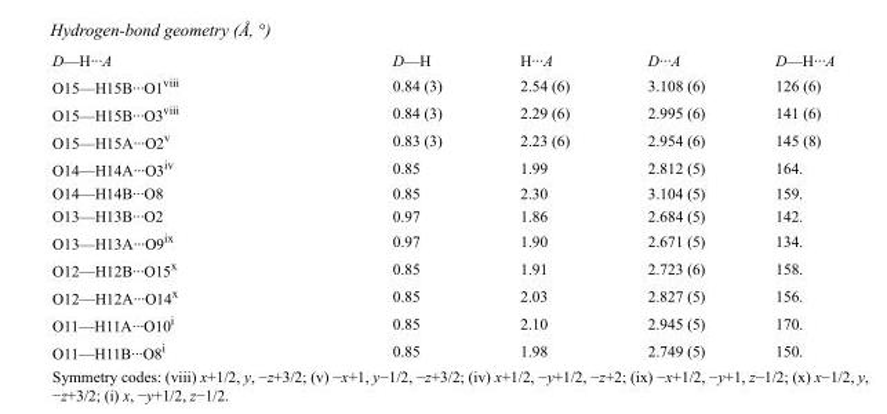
<table><tbody><tr><td>D—H···A</td><td>D—H</td><td>H···A</td><td>D···A</td><td>D—H···A</td></tr><tr><td>O15—H15B···O1<sup>viii</sup></td><td>0.84 (3)</td><td>2.54 (6)</td><td>3.108 (6)</td><td>126 (6)</td></tr><tr><td>O15—H15B···O3<sup>viii</sup></td><td>0.84 (3)</td><td>2.29 (6)</td><td>2.995 (6)</td><td>141 (6)</td></tr><tr><td>O15—H15A···O2<sup>v</sup></td><td>0.83 (3)</td><td>2.23 (6)</td><td>2.954 (6)</td><td>145 (8)</td></tr><tr><td>O14—H14A···O3<sup>iv</sup></td><td>0.85</td><td>1.99</td><td>2.812 (5)</td><td>164.</td></tr><tr><td>O14—H14B···O8</td><td>0.85</td><td>2.30</td><td>3.104 (5)</td><td>159.</td></tr><tr><td>O13—H13B···O2</td><td>0.97</td><td>1.86</td><td>2.684 (5)</td><td>142.</td></tr><tr><td>O13—H13A···O9<sup>ix</sup></td><td>0.97</td><td>1.90</td><td>2.671 (5)</td><td>134.</td></tr><tr><td>O12—H12B···O15<sup>x</sup></td><td>0.85</td><td>1.91</td><td>2.723 (6)</td><td>158.</td></tr><tr><td>O12—H12A···O14<sup>x</sup></td><td>0.85</td><td>2.03</td><td>2.827 (5)</td><td>156.</td></tr><tr><td>O11—H11A···O10<sup>i</sup></td><td>0.85</td><td>2.10</td><td>2.945 (5)</td><td>170.</td></tr><tr><td>O11—H11B···O8<sup>i</sup></td><td>0.85</td><td>1.98</td><td>2.749 (5)</td><td>150.</td></tr></tbody></table>